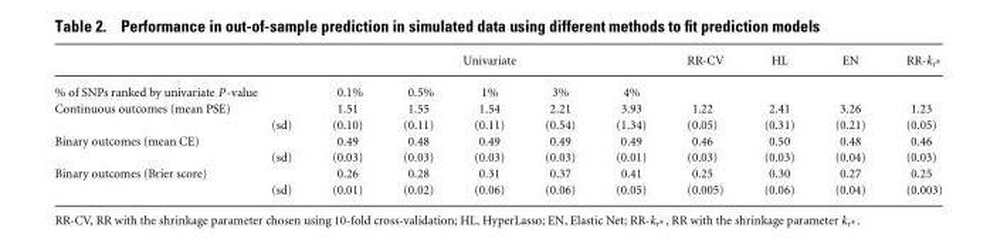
<table><thead><tr><td rowspan="2">% of SNPs ranked by univariate P-value</td><td colspan="5">Univariate</td><td rowspan="2">RR-CV</td><td rowspan="2">HL</td><td rowspan="2">EN</td><td rowspan="2">RR-kr∗</td></tr><tr><td>0.1%</td><td>0.5%</td><td>1%</td><td>3%</td><td>4%</td></tr></thead><tbody><tr><td>Continuous outcomes (mean PSE)</td><td>1.51</td><td>1.55</td><td>1.54</td><td>2.21</td><td>3.93</td><td>1.22</td><td>2.41</td><td>3.26</td><td>1.23</td></tr><tr><td>(sd)</td><td>(0.10)</td><td>(0.11)</td><td>(0.11)</td><td>(0.54)</td><td>(1.34)</td><td>(0.05)</td><td>(0.31)</td><td>(0.21)</td><td>(0.05)</td></tr><tr><td>Binary outcomes (mean CE)</td><td>0.49</td><td>0.48</td><td>0.49</td><td>0.49</td><td>0.49</td><td>0.46</td><td>0.50</td><td>0.48</td><td>0.46</td></tr><tr><td>(sd)</td><td>(0.03)</td><td>(0.03)</td><td>(0.03)</td><td>(0.03)</td><td>(0.01)</td><td>(0.03)</td><td>(0.03)</td><td>(0.04)</td><td>(0.03)</td></tr><tr><td>Binary outcomes (Brier score)</td><td>0.26</td><td>0.28</td><td>0.31</td><td>0.37</td><td>0.41</td><td>0.25</td><td>0.30</td><td>0.27</td><td>0.25</td></tr><tr><td>(sd)</td><td>(0.01)</td><td>(0.02)</td><td>(0.06)</td><td>(0.06)</td><td>(0.05)</td><td>(0.005)</td><td>(0.06)</td><td>(0.04)</td><td>(0.003)</td></tr></tbody></table>